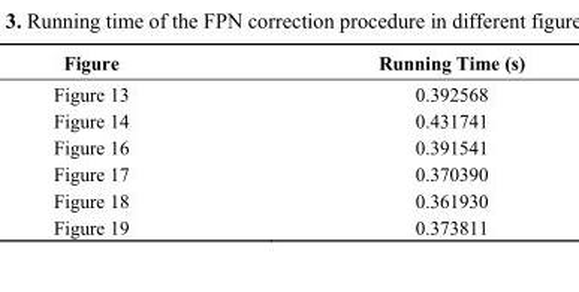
<table><thead><tr><td>Figure</td><td>Running Time (s)</td></tr></thead><tbody><tr><td>Figure 13</td><td>0.392568</td></tr><tr><td>Figure 14</td><td>0.431741</td></tr><tr><td>Figure 16</td><td>0.391541</td></tr><tr><td>Figure 17</td><td>0.370390</td></tr><tr><td>Figure 18</td><td>0.361930</td></tr><tr><td>Figure 19</td><td>0.373811</td></tr></tbody></table>